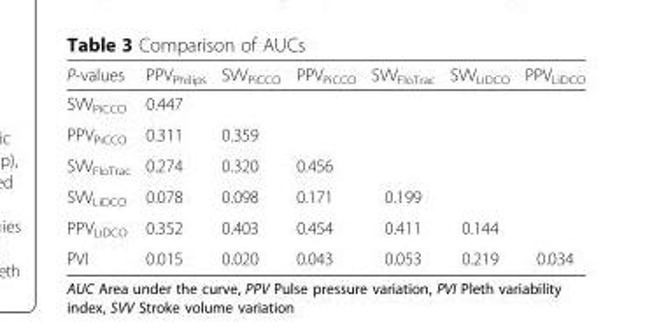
<table><thead><tr><td>P-values</td><td>PPV<sub>Philips</sub></td><td>SVV<sub>PiCCO</sub></td><td>PPV<sub>PiCCO</sub></td><td>SVV<sub>FloTrac</sub></td><td>SVV<sub>LiDCO</sub></td><td>PPV<sub>LiDCO</sub></td></tr></thead><tbody><tr><td>SVV<sub>PiCCO</sub></td><td>0.447</td><td></td><td></td><td></td><td></td><td></td></tr><tr><td>PPV<sub>PiCCO</sub></td><td>0.311</td><td>0.359</td><td></td><td></td><td></td><td></td></tr><tr><td>SVV<sub>FloTrac</sub></td><td>0.274</td><td>0.320</td><td>0.456</td><td></td><td></td><td></td></tr><tr><td>SVV<sub>LiDCO</sub></td><td>0.078</td><td>0.098</td><td>0.171</td><td>0.199</td><td></td><td></td></tr><tr><td>PPV<sub>LiDCO</sub></td><td>0.352</td><td>0.403</td><td>0.454</td><td>0.411</td><td>0.144</td><td></td></tr><tr><td>PVI</td><td>0.015</td><td>0.020</td><td>0.043</td><td>0.053</td><td>0.219</td><td>0.034</td></tr></tbody></table>